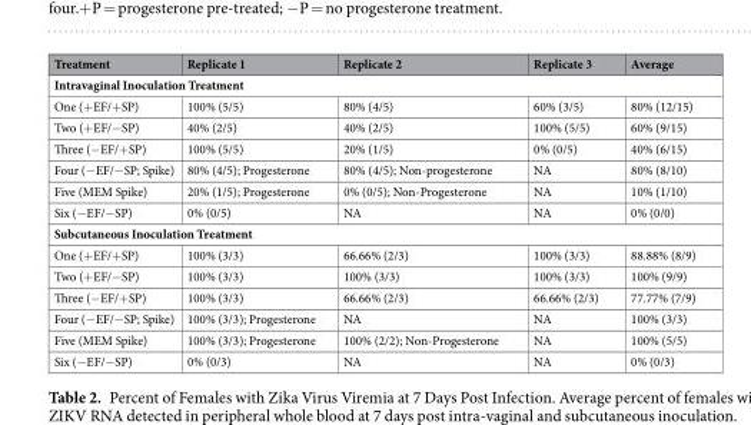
<table><thead><tr><td>Treatment</td><td>Replicate 1</td><td>Replicate 2</td><td>Replicate 3</td><td>Average</td></tr></thead><tbody><tr><td colspan="5">Intravaginal Inoculation Treatment</td></tr><tr><td>One (+EF/+SP)</td><td>100% (5/5)</td><td>80% (4/5)</td><td>60% (3/5)</td><td>80% (12/15)</td></tr><tr><td>Two (+EF/−SP)</td><td>40% (2/5)</td><td>40% (2/5)</td><td>100% (5/5)</td><td>60% (9/15)</td></tr><tr><td>Three (−EF/+SP)</td><td>100% (5/5)</td><td>20% (1/5)</td><td>0% (0/5)</td><td>40% (6/15)</td></tr><tr><td>Four (−EF/−SP; Spike)</td><td>80% (4/5); Progesterone</td><td>80% (4/5); Non-progesterone</td><td>NA</td><td>80% (8/10)</td></tr><tr><td>Five (MEM Spike)</td><td>20% (1/5); Progesterone</td><td>0% (0/5); Non-Progesterone</td><td>NA</td><td>10% (1/10)</td></tr><tr><td>Six (−EF/−SP)</td><td>0% (0/5)</td><td>NA</td><td>NA</td><td>0% (0/0)</td></tr><tr><td colspan="5">Subcutaneous Inoculation Treatment</td></tr><tr><td>One (+EF/+SP)</td><td>100% (3/3)</td><td>66.66% (2/3)</td><td>100% (3/3)</td><td>88.88% (8/9)</td></tr><tr><td>Two (+EF/−SP)</td><td>100% (3/3)</td><td>100% (3/3)</td><td>100% (3/3)</td><td>100% (9/9)</td></tr><tr><td>Three (−EF/+SP)</td><td>100% (3/3)</td><td>66.66% (2/3)</td><td>66.66% (2/3)</td><td>77.77% (7/9)</td></tr><tr><td>Four (−EF/−SP; Spike)</td><td>100% (3/3); Progesterone</td><td>NA</td><td>NA</td><td>100% (3/3)</td></tr><tr><td>Five (MEM Spike)</td><td>100% (3/3); Progesterone</td><td>100% (2/2); Non-Progesterone</td><td>NA</td><td>100% (5/5)</td></tr><tr><td>Six (−EF/−SP)</td><td>0% (0/3)</td><td>NA</td><td>NA</td><td>0% (0/3)</td></tr></tbody></table>